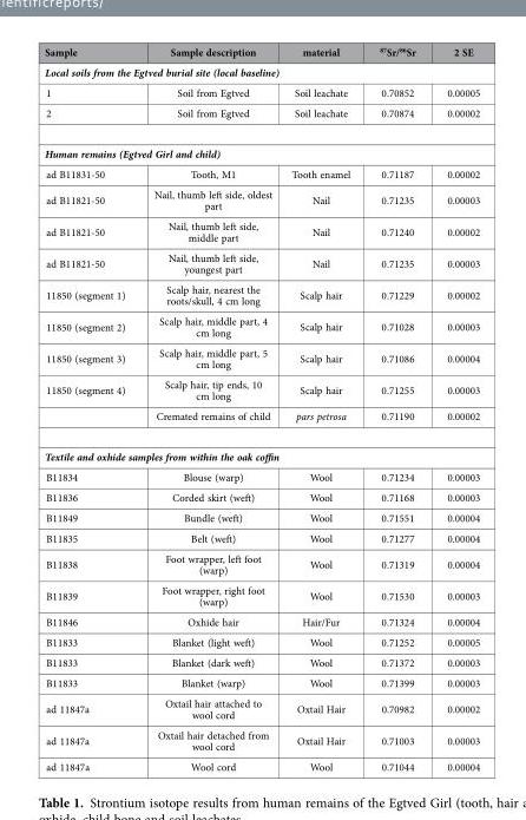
<table><thead><tr><td>Sample</td><td>Sample description</td><td>material</td><td><sup>87</sup>Sr/<sup>86</sup>Sr</td><td>2 SE</td></tr></thead><tbody><tr><td colspan="5">Local soils from the Egtved burial site (local baseline)</td></tr><tr><td>1</td><td>Soil from Egtved</td><td>Soil leachate</td><td>0.70852</td><td>0.00005</td></tr><tr><td>2</td><td>Soil from Egtved</td><td>Soil leachate</td><td>0.70874</td><td>0.00002</td></tr><tr><td colspan="5">Human remains (Egtved Girl and child)</td></tr><tr><td>ad B11831-50</td><td>Tooth, M1</td><td>Tooth enamel</td><td>0.71187</td><td>0.00002</td></tr><tr><td>ad B11821-50</td><td>Nail, thumb left side, oldest part</td><td>Nail</td><td>0.71235</td><td>0.00003</td></tr><tr><td>ad B11821-50</td><td>Nail, thumb left side, middle part</td><td>Nail</td><td>0.71240</td><td>0.00002</td></tr><tr><td>ad B11821-50</td><td>Nail, thumb left side, youngest part</td><td>Nail</td><td>0.71235</td><td>0.00003</td></tr><tr><td>11850 (segment 1)</td><td>Scalp hair, nearest the roots/skull, 4 cm long</td><td>Scalp hair</td><td>0.71229</td><td>0.00002</td></tr><tr><td>11850 (segment 2)</td><td>Scalp hair, middle part, 4 cm long</td><td>Scalp hair</td><td>0.71028</td><td>0.00003</td></tr><tr><td>11850 (segment 3)</td><td>Scalp hair, middle part, 5 cm long</td><td>Scalp hair</td><td>0.71086</td><td>0.00004</td></tr><tr><td rowspan="2">11850 (segment 4)</td><td>Scalp hair, tip ends, 10 cm long</td><td>Scalp hair</td><td>0.71255</td><td>0.00003</td></tr><tr><td>Cremated remains of child</td><td>pars petrosa</td><td>0.71190</td><td>0.00002</td></tr><tr><td colspan="5">Textile and oxhide samples from within the oak coffin</td></tr><tr><td>B11834</td><td>Blouse (warp)</td><td>Wool</td><td>0.71234</td><td>0.00003</td></tr><tr><td>B11836</td><td>Corded skirt (weft)</td><td>Wool</td><td>0.71168</td><td>0.00003</td></tr><tr><td>B11849</td><td>Bundle (weft)</td><td>Wool</td><td>0.71551</td><td>0.00004</td></tr><tr><td>B11835</td><td>Belt (weft)</td><td>Wool</td><td>0.71277</td><td>0.00004</td></tr><tr><td>B11838</td><td>Foot wrapper, left foot (warp)</td><td>Wool</td><td>0.71319</td><td>0.00004</td></tr><tr><td>B11839</td><td>Foot wrapper, right foot (warp)</td><td>Wool</td><td>0.71530</td><td>0.00003</td></tr><tr><td>B11846</td><td>Oxhide hair</td><td>Hair/Fur</td><td>0.71324</td><td>0.00004</td></tr><tr><td>B11833</td><td>Blanket (light weft)</td><td>Wool</td><td>0.71252</td><td>0.00005</td></tr><tr><td>B11833</td><td>Blanket (dark weft)</td><td>Wool</td><td>0.71372</td><td>0.00003</td></tr><tr><td>B11833</td><td>Blanket (warp)</td><td>Wool</td><td>0.71399</td><td>0.00003</td></tr><tr><td>ad 11847a</td><td>Oxtail hair attached to wool cord</td><td>Oxtail Hair</td><td>0.70982</td><td>0.00002</td></tr><tr><td>ad 11847a</td><td>Oxtail hair detached from wool cord</td><td>Oxtail Hair</td><td>0.71003</td><td>0.00003</td></tr><tr><td>ad 11847a</td><td>Wool cord</td><td>Wool</td><td>0.71044</td><td>0.00004</td></tr></tbody></table>